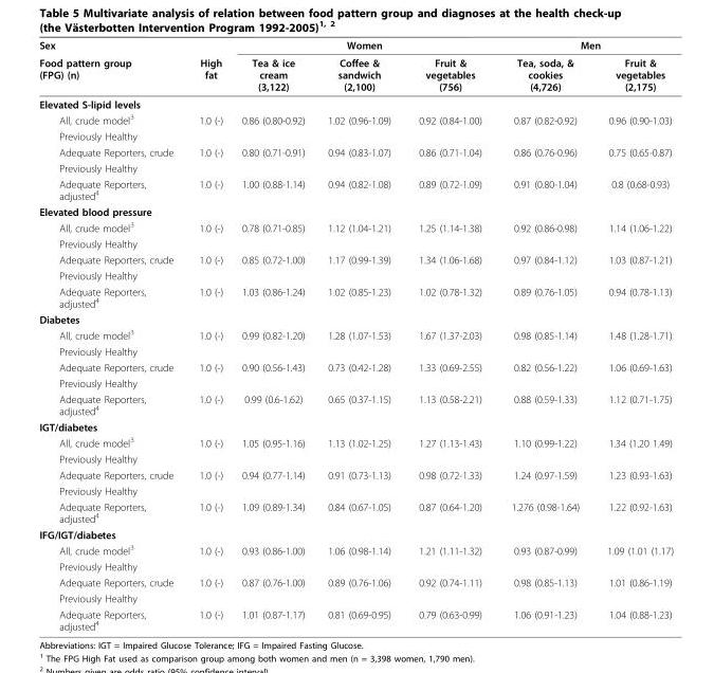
<table><thead><tr><td rowspan="2">Sex Food pattern group (FPG) (n)</td><td rowspan="2">High fat</td><td colspan="3">Women</td><td colspan="2">Men</td></tr><tr><td>Tea &amp; ice cream (3,122)</td><td>Coffee &amp; sandwich (2,100)</td><td>Fruit &amp; vegetables (756)</td><td>Tea, soda, &amp; cookies (4,726)</td><td>Fruit &amp; vegetables (2,175)</td></tr></thead><tbody><tr><td colspan="7">Elevated S-lipid levels</td></tr><tr><td>All, crude model<sup>3</sup></td><td>1.0 (-)</td><td>0.86 (0.80-0.92)</td><td>1.02 (0.96-1.09)</td><td>0.92 (0.84-1.00)</td><td>0.87 (0.82-0.92)</td><td>0.96 (0.90-1.03)</td></tr><tr><td colspan="7">Previously Healthy</td></tr><tr><td>Adequate Reporters, crude</td><td>1.0 (-)</td><td>0.80 (0.71-0.91)</td><td>0.94 (0.83-1.07)</td><td>0.86 (0.71-1.04)</td><td>0.86 (0.76-0.96)</td><td>0.75 (0.65-0.87)</td></tr><tr><td colspan="7">Previously Healthy</td></tr><tr><td>Adequate Reporters, adjusted<sup>4</sup></td><td>1.0 (-)</td><td>1.00 (0.88-1.14)</td><td>0.94 (0.82-1.08)</td><td>0.89 (0.72-1.09)</td><td>0.91 (0.80-1.04)</td><td>0.8 (0.68-0.93)</td></tr><tr><td colspan="7">Elevated blood pressure</td></tr><tr><td>All, crude model<sup>3</sup></td><td>1.0 (-)</td><td>0.78 (0.71-0.85)</td><td>1.12 (1.04-1.21)</td><td>1.25 (1.14-1.38)</td><td>0.92 (0.86-0.98)</td><td>1.14 (1.06-1.22)</td></tr><tr><td colspan="7">Previously Healthy</td></tr><tr><td>Adequate Reporters, crude</td><td>1.0 (-)</td><td>0.85 (0.72-1.00)</td><td>1.17 (0.99-1.39)</td><td>1.34 (1.06-1.68)</td><td>0.97 (0.84-1.12)</td><td>1.03 (0.87-1.21)</td></tr><tr><td colspan="7">Previously Healthy</td></tr><tr><td>Adequate Reporters, adjusted<sup>4</sup></td><td>1.0 (-)</td><td>1.03 (0.86-1.24)</td><td>1.02 (0.85-1.23)</td><td>1.02 (0.78-1.32)</td><td>0.89 (0.76-1.05)</td><td>0.94 (0.78-1.13)</td></tr><tr><td colspan="7">Diabetes</td></tr><tr><td>All, crude model<sup>3</sup></td><td>1.0 (-)</td><td>0.99 (0.82-1.20)</td><td>1.28 (1.07-1.53)</td><td>1.67 (1.37-2.03)</td><td>0.98 (0.85-1.14)</td><td>1.48 (1.28-1.71)</td></tr><tr><td colspan="7">Previously Healthy</td></tr><tr><td>Adequate Reporters, crude</td><td>1.0 (-)</td><td>0.90 (0.56-1.43)</td><td>0.73 (0.42-1.28)</td><td>1.33 (0.69-2.55)</td><td>0.82 (0.56-1.22)</td><td>1.06 (0.69-1.63)</td></tr><tr><td colspan="7">Previously Healthy</td></tr><tr><td>Adequate Reporters, adjusted<sup>4</sup></td><td>1.0 (-)</td><td>0.99 (0.6-1.62)</td><td>0.65 (0.37-1.15)</td><td>1.13 (0.58-2.21)</td><td>0.88 (0.59-1.33)</td><td>1.12 (0.71-1.75)</td></tr><tr><td colspan="7">IGT/diabetes</td></tr><tr><td>All, crude model<sup>3</sup></td><td>1.0 (-)</td><td>1.05 (0.95-1.16)</td><td>1.13 (1.02-1.25)</td><td>1.27 (1.13-1.43)</td><td>1.10 (0.99-1.22)</td><td>1.34 (1.20 1.49)</td></tr><tr><td colspan="7">Previously Healthy</td></tr><tr><td>Adequate Reporters, crude</td><td>1.0 (-)</td><td>0.94 (0.77-1.14)</td><td>0.91 (0.73-1.13)</td><td>0.98 (0.72-1.33)</td><td>1.24 (0.97-1.59)</td><td>1.23 (0.93-1.63)</td></tr><tr><td colspan="7">Previously Healthy</td></tr><tr><td>Adequate Reporters, adjusted<sup>4</sup></td><td>1.0 (-)</td><td>1.09 (0.89-1.34)</td><td>0.84 (0.67-1.05)</td><td>0.87 (0.64-1.20)</td><td>1.276 (0.98-1.64)</td><td>1.22 (0.92-1.63)</td></tr><tr><td colspan="7">IFG/IGT/diabetes</td></tr><tr><td>All, crude model<sup>3</sup></td><td>1.0 (-)</td><td>0.93 (0.86-1.00)</td><td>1.06 (0.98-1.14)</td><td>1.21 (1.11-1.32)</td><td>0.93 (0.87-0.99)</td><td>1.09 (1.01 (1.17)</td></tr><tr><td colspan="7">Previously Healthy</td></tr><tr><td>Adequate Reporters, crude</td><td>1.0 (-)</td><td>0.87 (0.76-1.00)</td><td>0.89 (0.76-1.06)</td><td>0.92 (0.74-1.11)</td><td>0.98 (0.85-1.13)</td><td>1.01 (0.86-1.19)</td></tr><tr><td colspan="7">Previously Healthy</td></tr><tr><td>Adequate Reporters, adjusted<sup>4</sup></td><td>1.0 (-)</td><td>1.01 (0.87-1.17)</td><td>0.81 (0.69-0.95)</td><td>0.79 (0.63-0.99)</td><td>1.06 (0.91-1.23)</td><td>1.04 (0.88-1.23)</td></tr></tbody></table>